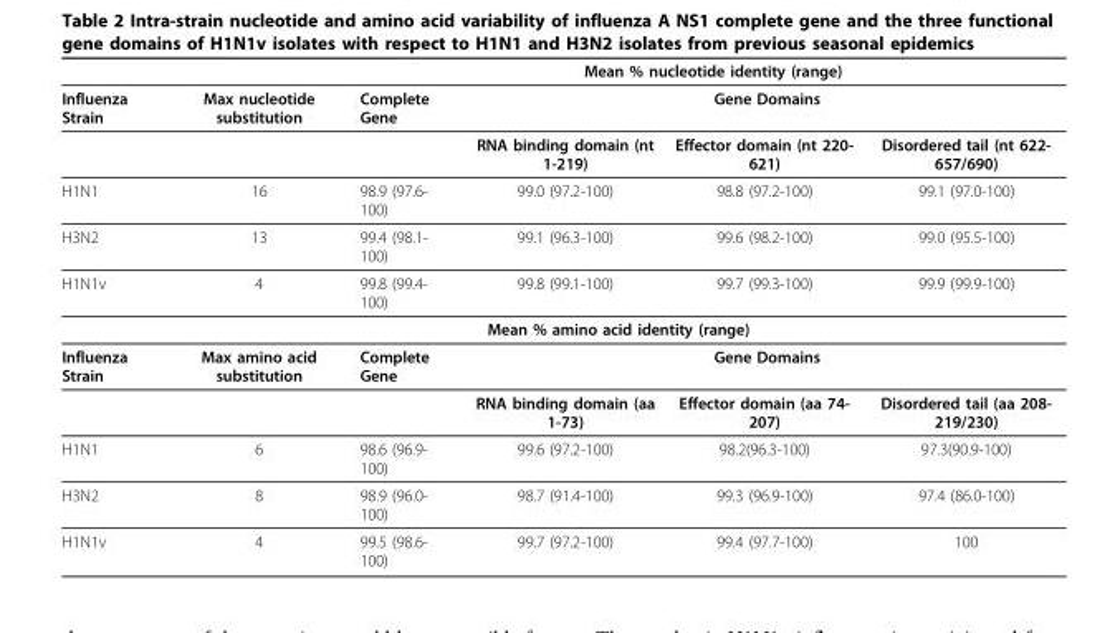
<table><thead><tr><td rowspan="3">Influenza Strain</td><td rowspan="3">Max nucleotide substitution</td><td colspan="4">Mean % nucleotide identity (range)</td></tr><tr><td rowspan="2">Complete Gene</td><td colspan="3">Gene Domains</td></tr><tr><td>RNA binding domain (nt 1-219)</td><td>Effector domain (nt 220- 621)</td><td>Disordered tail (nt 622- 657/690)</td></tr></thead><tbody><tr><td>H1N1</td><td>16</td><td>98.9 (97.6- 100)</td><td>99.0 (97.2-100)</td><td>98.8 (97.2-100)</td><td>99.1 (97.0-100)</td></tr><tr><td>H3N2</td><td>13</td><td>99.4 (98.1- 100)</td><td>99.1 (96.3-100)</td><td>99.6 (98.2-100)</td><td>99.0 (95.5-100)</td></tr><tr><td rowspan="2">H1N1v</td><td>4</td><td>99.8 (99.4- 100)</td><td>99.8 (99.1-100)</td><td>99.7 (99.3-100)</td><td>99.9 (99.9-100)</td></tr><tr><td colspan="5">Mean % amino acid identity (range)</td></tr><tr><td rowspan="2">Influenza Strain</td><td>Max amino acid substitution</td><td>Complete Gene</td><td colspan="3">Gene Domains</td></tr><tr><td></td><td></td><td>RNA binding domain (aa 1-73)</td><td>Effector domain (aa 74- 207)</td><td>Disordered tail (aa 208- 219/230)</td></tr><tr><td>H1N1</td><td>6</td><td>98.6 (96.9- 100)</td><td>99.6 (97.2-100)</td><td>98.2(96.3-100)</td><td>97.3(90.9-100)</td></tr><tr><td>H3N2</td><td>8</td><td>98.9 (96.0- 100)</td><td>98.7 (91.4-100)</td><td>99.3 (96.9-100)</td><td>97.4 (86.0-100)</td></tr><tr><td>H1N1v</td><td>4</td><td>99.5 (98.6- 100)</td><td>99.7 (97.2-100)</td><td>99.4 (97.7-100)</td><td>100</td></tr></tbody></table>